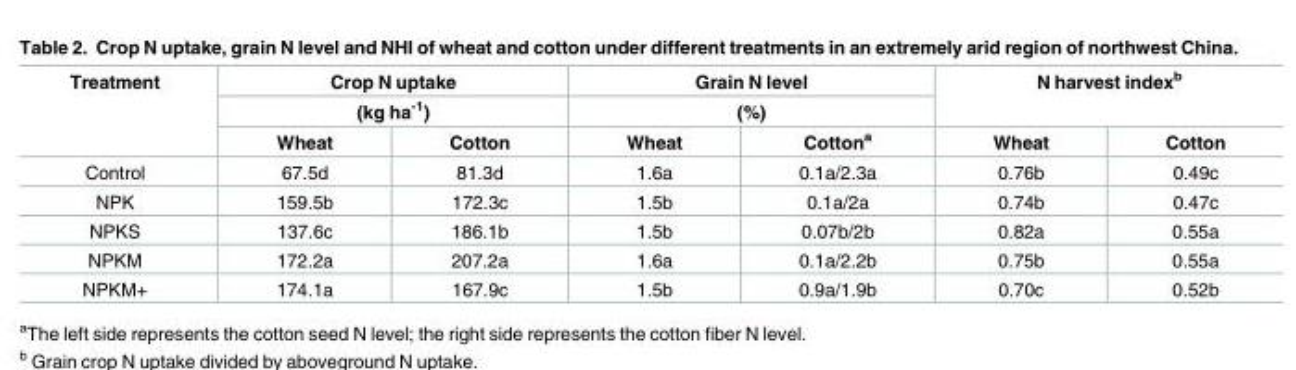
<table><thead><tr><td rowspan="3">Treatment</td><td rowspan="2" colspan="2">Crop N uptake (kg ha<sup>-1</sup>)</td><td rowspan="2" colspan="2">Grain N level (%)</td><td rowspan="2" colspan="2">N harvest index<sup>b</sup></td></tr><tr></tr><tr><td>Wheat</td><td>Cotton</td><td>Wheat</td><td>Cotton<sup>a</sup></td><td>Wheat</td><td>Cotton</td></tr></thead><tbody><tr><td>Control</td><td>67.5d</td><td>81.3d</td><td>1.6a</td><td>0.1a/2.3a</td><td>0.76b</td><td>0.49c</td></tr><tr><td>NPK</td><td>159.5b</td><td>172.3c</td><td>1.5b</td><td>0.1a/2a</td><td>0.74b</td><td>0.47c</td></tr><tr><td>NPKS</td><td>137.6c</td><td>186.1b</td><td>1.5b</td><td>0.07b/2b</td><td>0.82a</td><td>0.55a</td></tr><tr><td>NPKM</td><td>172.2a</td><td>207.2a</td><td>1.6a</td><td>0.1a/2.2b</td><td>0.75b</td><td>0.55a</td></tr><tr><td>NPKM+</td><td>174.1a</td><td>167.9c</td><td>1.5b</td><td>0.9a/1.9b</td><td>0.70c</td><td>0.52b</td></tr></tbody></table>